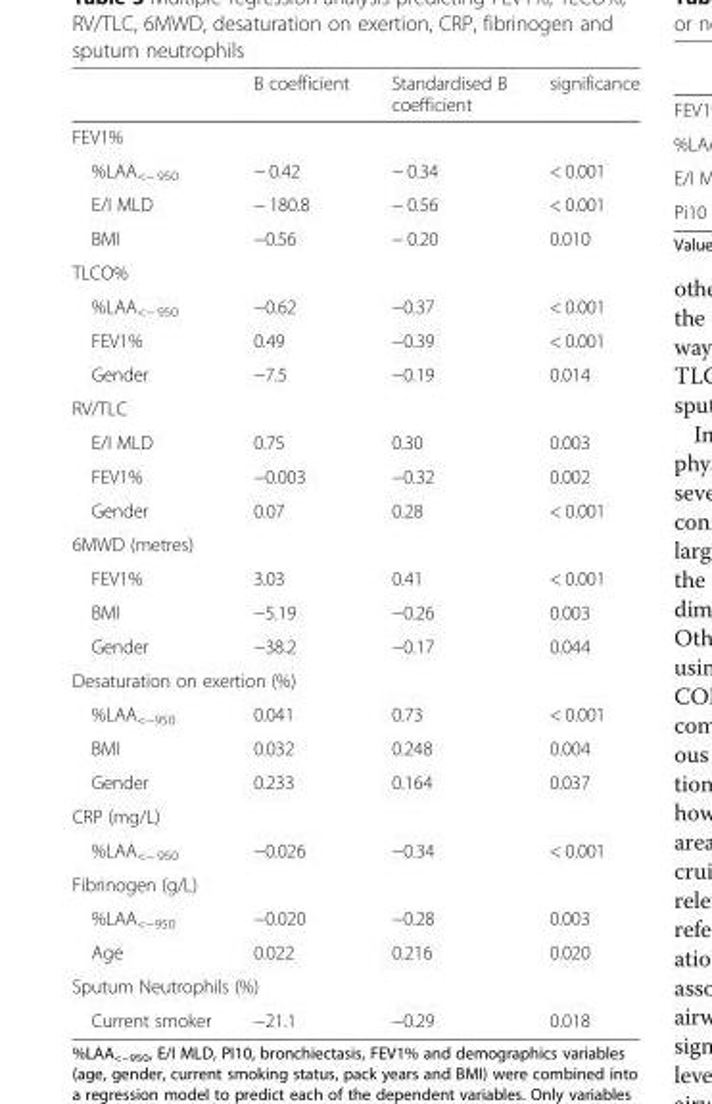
<table><thead><tr><td></td><td>B coefficient</td><td>Standardised B coefficient</td><td>significance</td></tr></thead><tbody><tr><td colspan="4">FEV1%</td></tr><tr><td>%LAA<sub>&lt;− 950</sub></td><td>− 0.42</td><td>− 0.34</td><td>&lt; 0.001</td></tr><tr><td>E/I MLD</td><td>− 180.8</td><td>− 0.56</td><td>&lt; 0.001</td></tr><tr><td>BMI</td><td>−0.56</td><td>− 0.20</td><td>0.010</td></tr><tr><td colspan="4">TLCO%</td></tr><tr><td>%LAA<sub>&lt;− 950</sub></td><td>−0.62</td><td>−0.37</td><td>&lt; 0.001</td></tr><tr><td>FEV1%</td><td>0.49</td><td>−0.39</td><td>&lt; 0.001</td></tr><tr><td>Gender</td><td>−7.5</td><td>−0.19</td><td>0.014</td></tr><tr><td colspan="4">RV/TLC</td></tr><tr><td>E/I MLD</td><td>0.75</td><td>0.30</td><td>0.003</td></tr><tr><td>FEV1%</td><td>−0.003</td><td>−0.32</td><td>0.002</td></tr><tr><td>Gender</td><td>0.07</td><td>0.28</td><td>&lt; 0.001</td></tr><tr><td colspan="4">6MWD (metres)</td></tr><tr><td>FEV1%</td><td>3.03</td><td>0.41</td><td>&lt; 0.001</td></tr><tr><td>BMI</td><td>−5.19</td><td>−0.26</td><td>0.003</td></tr><tr><td>Gender</td><td>−38.2</td><td>−0.17</td><td>0.044</td></tr><tr><td colspan="4">Desaturation on exertion (%)</td></tr><tr><td>%LAA<sub>&lt;−950</sub></td><td>0.041</td><td>0.73</td><td>&lt; 0.001</td></tr><tr><td>BMI</td><td>0.032</td><td>0.248</td><td>0.004</td></tr><tr><td>Gender</td><td>0.233</td><td>0.164</td><td>0.037</td></tr><tr><td colspan="4">CRP (mg/L)</td></tr><tr><td>%LAA<sub>&lt;− 950</sub></td><td>−0.026</td><td>−0.34</td><td>&lt; 0.001</td></tr><tr><td colspan="4">Fibrinogen (g/L)</td></tr><tr><td>%LAA<sub>&lt;−950</sub></td><td>−0.020</td><td>−0.28</td><td>0.003</td></tr><tr><td>Age</td><td>0.022</td><td>0.216</td><td>0.020</td></tr><tr><td colspan="4">Sputum Neutrophils (%)</td></tr><tr><td>Current smoker</td><td>−21.1</td><td>−0.29</td><td>0.018</td></tr></tbody></table>